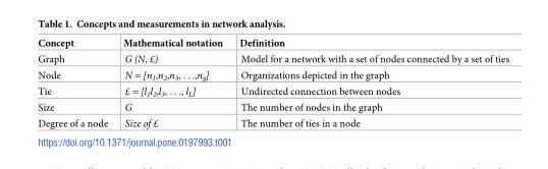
<table><thead><tr><td>Concept</td><td>Mathematical notation</td><td>Definition</td></tr></thead><tbody><tr><td>Graph</td><td>G (N, £)</td><td>Model for a network with a set of nodes connected by a set of ties</td></tr><tr><td>Node</td><td>N = [n<sub>1</sub>,n<sub>2</sub>,n<sub>3</sub>, . . .,n<sub>g</sub>]</td><td>Organizations depicted in the graph</td></tr><tr><td>Tie</td><td>£ = [l<sub>1</sub>l<sub>2</sub>,l<sub>3</sub>, . . ., l<sub>L</sub>]</td><td>Undirected connection between nodes</td></tr><tr><td>Size</td><td>G</td><td>The number of nodes in the graph</td></tr><tr><td>Degree of a node</td><td>Size of £</td><td>The number of ties in a node</td></tr></tbody></table>